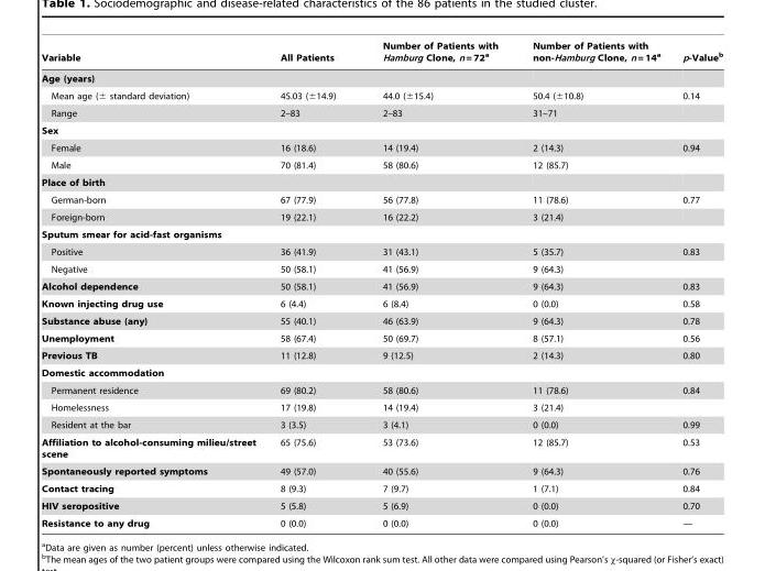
<table><thead><tr><td>Variable</td><td>All Patients</td><td>Number of Patients with Hamburg Clone, n = 72<sup>a</sup></td><td>Number of Patients with non-Hamburg Clone, n = 14<sup>a</sup></td><td>p-Value<sup>b</sup></td></tr></thead><tbody><tr><td colspan="5">Age (years)</td></tr><tr><td>Mean age (± standard deviation)</td><td>45.03 (±14.9)</td><td>44.0 (±15.4)</td><td>50.4 (±10.8)</td><td>0.14</td></tr><tr><td>Range</td><td>2–83</td><td>2–83</td><td>31–71</td><td></td></tr><tr><td colspan="5">Sex</td></tr><tr><td>Female</td><td>16 (18.6)</td><td>14 (19.4)</td><td>2 (14.3)</td><td>0.94</td></tr><tr><td>Male</td><td>70 (81.4)</td><td>58 (80.6)</td><td>12 (85.7)</td><td></td></tr><tr><td colspan="5">Place of birth</td></tr><tr><td>German-born</td><td>67 (77.9)</td><td>56 (77.8)</td><td>11 (78.6)</td><td>0.77</td></tr><tr><td>Foreign-born</td><td>19 (22.1)</td><td>16 (22.2)</td><td>3 (21.4)</td><td></td></tr><tr><td colspan="5">Sputum smear for acid-fast organisms</td></tr><tr><td>Positive</td><td>36 (41.9)</td><td>31 (43.1)</td><td>5 (35.7)</td><td>0.83</td></tr><tr><td>Negative</td><td>50 (58.1)</td><td>41 (56.9)</td><td>9 (64.3)</td><td></td></tr><tr><td>Alcohol dependence</td><td>50 (58.1)</td><td>41 (56.9)</td><td>9 (64.3)</td><td>0.83</td></tr><tr><td>Known injecting drug use</td><td>6 (4.4)</td><td>6 (8.4)</td><td>0 (0.0)</td><td>0.58</td></tr><tr><td>Substance abuse (any)</td><td>55 (40.1)</td><td>46 (63.9)</td><td>9 (64.3)</td><td>0.78</td></tr><tr><td>Unemployment</td><td>58 (67.4)</td><td>50 (69.7)</td><td>8 (57.1)</td><td>0.56</td></tr><tr><td>Previous TB</td><td>11 (12.8)</td><td>9 (12.5)</td><td>2 (14.3)</td><td>0.80</td></tr><tr><td colspan="5">Domestic accommodation</td></tr><tr><td>Permanent residence</td><td>69 (80.2)</td><td>58 (80.6)</td><td>11 (78.6)</td><td>0.84</td></tr><tr><td>Homelessness</td><td>17 (19.8)</td><td>14 (19.4)</td><td>3 (21.4)</td><td></td></tr><tr><td>Resident at the bar</td><td>3 (3.5)</td><td>3 (4.1)</td><td>0 (0.0)</td><td>0.99</td></tr><tr><td>Affiliation to alcohol-consuming milieu/street scene</td><td>65 (75.6)</td><td>53 (73.6)</td><td>12 (85.7)</td><td>0.53</td></tr><tr><td>Spontaneously reported symptoms</td><td>49 (57.0)</td><td>40 (55.6)</td><td>9 (64.3)</td><td>0.76</td></tr><tr><td>Contact tracing</td><td>8 (9.3)</td><td>7 (9.7)</td><td>1 (7.1)</td><td>0.84</td></tr><tr><td>HIV seropositive</td><td>5 (5.8)</td><td>5 (6.9)</td><td>0 (0.0)</td><td>0.70</td></tr><tr><td>Resistance to any drug</td><td>0 (0.0)</td><td>0 (0.0)</td><td>0 (0.0)</td><td>—</td></tr></tbody></table>